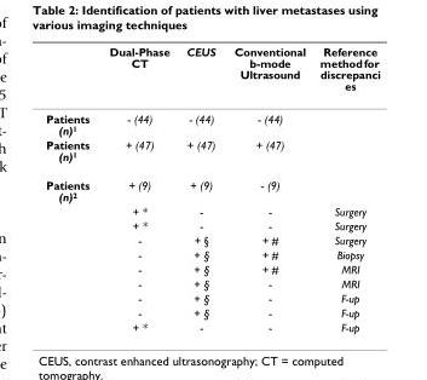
<table><thead><tr><td></td><td>Dual-Phase CT</td><td>CEUS</td><td>Conventional b-mode Ultrasound</td><td>Reference method for discrepanci es</td></tr></thead><tbody><tr><td>Patients (n)<sup>1</sup></td><td>- (44)</td><td>- (44)</td><td>- (44)</td><td></td></tr><tr><td>Patients (n)<sup>1</sup></td><td>+ (47)</td><td>+ (47)</td><td>+ (47)</td><td></td></tr><tr><td rowspan="10">Patients (n)<sup>2</sup></td><td>+ (9)</td><td>+ (9)</td><td>- (9)</td><td></td></tr><tr><td>+ *</td><td>-</td><td>-</td><td>Surgery</td></tr><tr><td>+ *</td><td>-</td><td>-</td><td>Surgery</td></tr><tr><td>-</td><td>+ §</td><td>+ #</td><td>Surgery</td></tr><tr><td>-</td><td>+ §</td><td>+ #</td><td>Biopsy</td></tr><tr><td>-</td><td>+ §</td><td>+ #</td><td>MRI</td></tr><tr><td>-</td><td>+ §</td><td>-</td><td>MRI</td></tr><tr><td>-</td><td>+ §</td><td>-</td><td>F-up</td></tr><tr><td>-</td><td>+ §</td><td>-</td><td>F-up</td></tr><tr><td>+ *</td><td>-</td><td>-</td><td>F-up</td></tr></tbody></table>